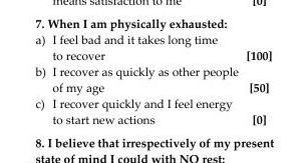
<table><tbody><tr><td>a) I feel bad and it takes long time to recover</td><td>[100]</td></tr><tr><td>b) I recover as quickly as other people of my age</td><td>[50]</td></tr><tr><td>c) I recover quickly and I feel energy to start new actions</td><td>[0]</td></tr></tbody></table>